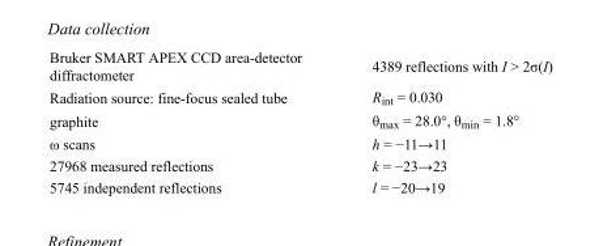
<table><tbody><tr><td>Bruker SMART APEX CCD area-detector diffractometer</td><td>4389 reflections with I &gt; 2σ(I)</td></tr><tr><td>Radiation source: fine-focus sealed tube</td><td>R<sub>int</sub> = 0.030</td></tr><tr><td>graphite</td><td>θ<sub>max</sub> = 28.0°, θ<sub>min</sub> = 1.8°</td></tr><tr><td>ω scans</td><td>h = −11→11</td></tr><tr><td>27968 measured reflections</td><td>k = −23→23</td></tr><tr><td>5745 independent reflections</td><td>l = −20→19</td></tr></tbody></table>